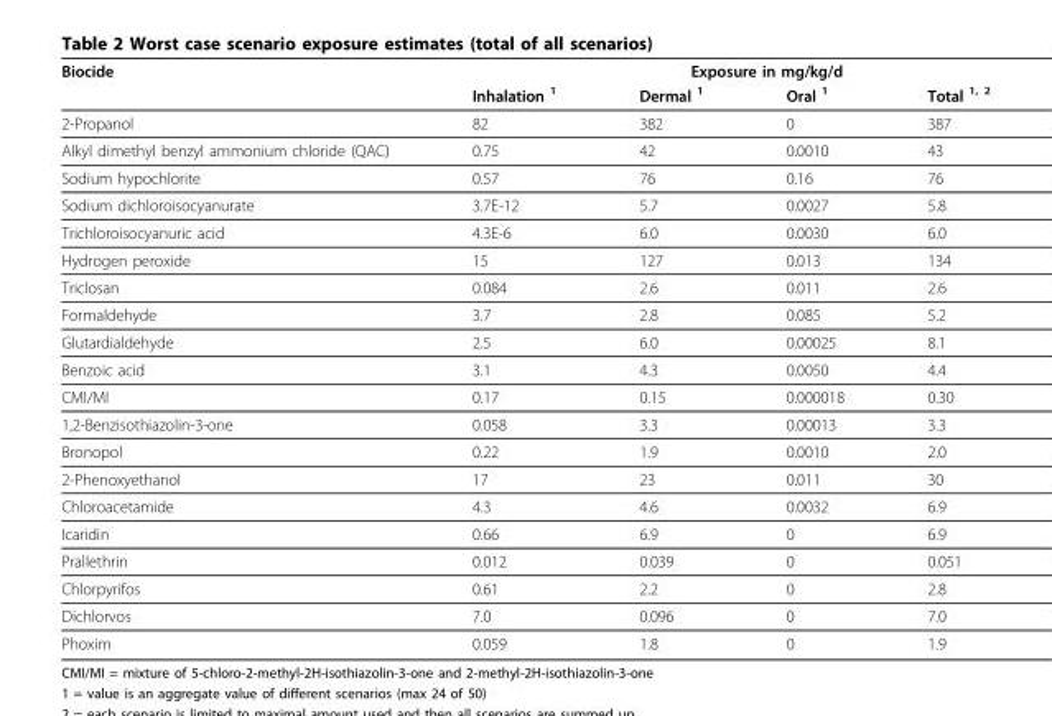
<table><thead><tr><td rowspan="2">Biocide</td><td colspan="4">Exposure in mg/kg/d</td></tr><tr><td>Inhalation <sup>1</sup></td><td>Dermal <sup>1</sup></td><td>Oral <sup>1</sup></td><td>Total <sup>1, 2</sup></td></tr></thead><tbody><tr><td>2-Propanol</td><td>82</td><td>382</td><td>0</td><td>387</td></tr><tr><td>Alkyl dimethyl benzyl ammonium chloride (QAC)</td><td>0.75</td><td>42</td><td>0.0010</td><td>43</td></tr><tr><td>Sodium hypochlorite</td><td>0.57</td><td>76</td><td>0.16</td><td>76</td></tr><tr><td>Sodium dichloroisocyanurate</td><td>3.7E-12</td><td>5.7</td><td>0.0027</td><td>5.8</td></tr><tr><td>Trichloroisocyanuric acid</td><td>4.3E-6</td><td>6.0</td><td>0.0030</td><td>6.0</td></tr><tr><td>Hydrogen peroxide</td><td>15</td><td>127</td><td>0.013</td><td>134</td></tr><tr><td>Triclosan</td><td>0.084</td><td>2.6</td><td>0.011</td><td>2.6</td></tr><tr><td>Formaldehyde</td><td>3.7</td><td>2.8</td><td>0.085</td><td>5.2</td></tr><tr><td>Glutardialdehyde</td><td>2.5</td><td>6.0</td><td>0.00025</td><td>8.1</td></tr><tr><td>Benzoic acid</td><td>3.1</td><td>4.3</td><td>0.0050</td><td>4.4</td></tr><tr><td>CMI/MI</td><td>0.17</td><td>0.15</td><td>0.000018</td><td>0.30</td></tr><tr><td>1,2-Benzisothiazolin-3-one</td><td>0.058</td><td>3.3</td><td>0.00013</td><td>3.3</td></tr><tr><td>Bronopol</td><td>0.22</td><td>1.9</td><td>0.0010</td><td>2.0</td></tr><tr><td>2-Phenoxyethanol</td><td>17</td><td>23</td><td>0.011</td><td>30</td></tr><tr><td>Chloroacetamide</td><td>4.3</td><td>4.6</td><td>0.0032</td><td>6.9</td></tr><tr><td>Icaridin</td><td>0.66</td><td>6.9</td><td>0</td><td>6.9</td></tr><tr><td>Prallethrin</td><td>0.012</td><td>0.039</td><td>0</td><td>0.051</td></tr><tr><td>Chlorpyrifos</td><td>0.61</td><td>2.2</td><td>0</td><td>2.8</td></tr><tr><td>Dichlorvos</td><td>7.0</td><td>0.096</td><td>0</td><td>7.0</td></tr><tr><td>Phoxim</td><td>0.059</td><td>1.8</td><td>0</td><td>1.9</td></tr></tbody></table>